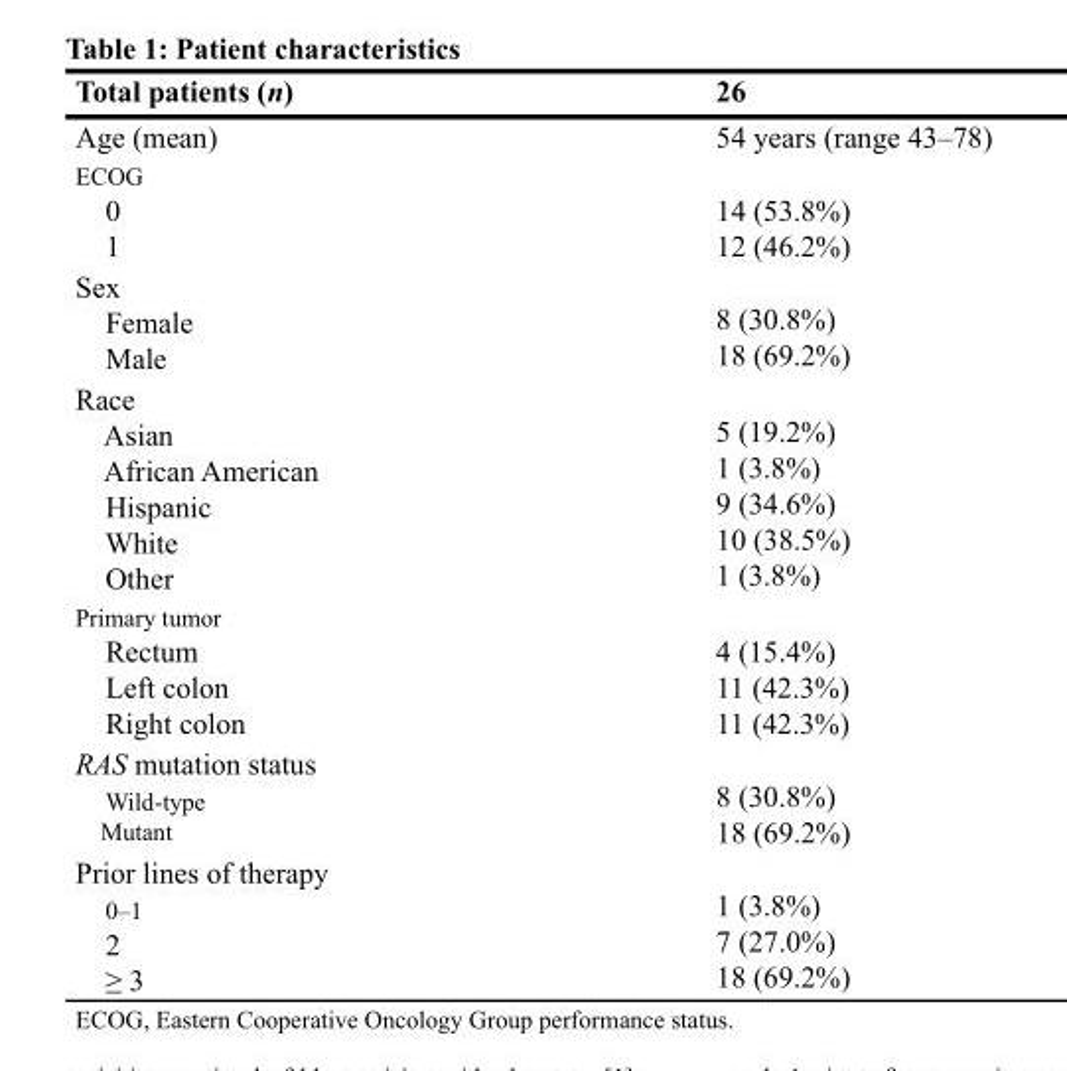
<table><thead><tr><td>Total patients (n)</td><td>26</td></tr></thead><tbody><tr><td>Age (mean)</td><td>54 years (range 43–78)</td></tr><tr><td>ECOG 0 1</td><td>14 (53.8%) 12 (46.2%)</td></tr><tr><td>Sex Female Male</td><td>8 (30.8%) 18 (69.2%)</td></tr><tr><td>Race Asian African American Hispanic White Other</td><td>5 (19.2%) 1 (3.8%) 9 (34.6%) 10 (38.5%) 1 (3.8%)</td></tr><tr><td>Primary tumor Rectum Left colon Right colon</td><td>4 (15.4%) 11 (42.3%) 11 (42.3%)</td></tr><tr><td>RAS mutation status Wild-type Mutant</td><td>8 (30.8%) 18 (69.2%)</td></tr><tr><td>Prior lines of therapy 0–1 2 ≥ 3</td><td>1 (3.8%) 7 (27.0%) 18 (69.2%)</td></tr></tbody></table>